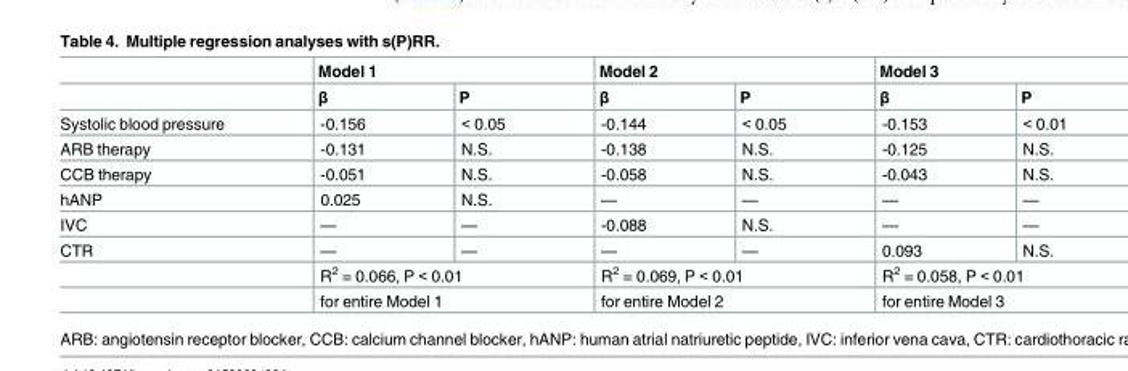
<table><thead><tr><td rowspan="2"></td><td colspan="2">Model 1</td><td colspan="2">Model 2</td><td colspan="2">Model 3</td></tr><tr><td>β</td><td>P</td><td>β</td><td>P</td><td>β</td><td>P</td></tr></thead><tbody><tr><td>Systolic blood pressure</td><td>-0.156</td><td>&lt; 0.05</td><td>-0.144</td><td>&lt; 0.05</td><td>-0.153</td><td>&lt; 0.01</td></tr><tr><td>ARB therapy</td><td>-0.131</td><td>N.S.</td><td>-0.138</td><td>N.S.</td><td>-0.125</td><td>N.S.</td></tr><tr><td>CCB therapy</td><td>-0.051</td><td>N.S.</td><td>-0.058</td><td>N.S.</td><td>-0.043</td><td>N.S.</td></tr><tr><td>hANP</td><td>0.025</td><td>N.S.</td><td>—</td><td>—</td><td>—</td><td>—</td></tr><tr><td>IVC</td><td>—</td><td>—</td><td>-0.088</td><td>N.S.</td><td>—</td><td>—</td></tr><tr><td rowspan="3">CTR</td><td>—</td><td>—</td><td>—</td><td>—</td><td>0.093</td><td>N.S.</td></tr><tr><td colspan="2">R<sup>2</sup> = 0.066, P &lt; 0.01</td><td colspan="2">R<sup>2</sup> = 0.069, P &lt; 0.01</td><td colspan="2">R<sup>2</sup> = 0.058, P &lt; 0.01</td></tr><tr><td colspan="2">for entire Model 1</td><td colspan="2">for entire Model 2</td><td colspan="2">for entire Model 3</td></tr></tbody></table>